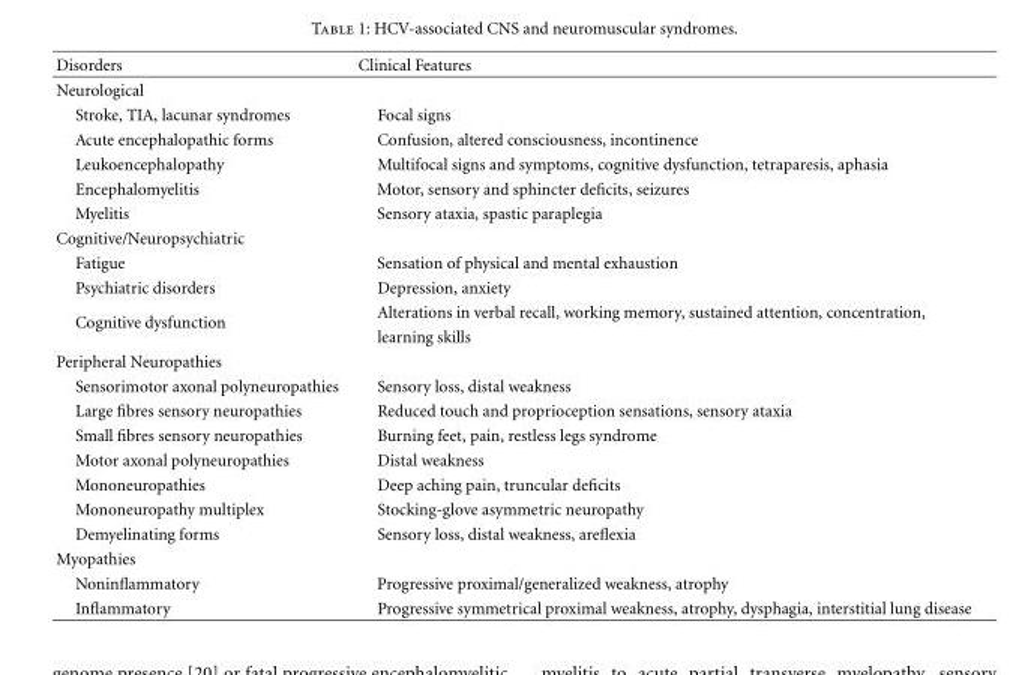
<table><thead><tr><td>Disorders</td><td>Clinical Features</td></tr></thead><tbody><tr><td colspan="2">Neurological</td></tr><tr><td>Stroke, TIA, lacunar syndromes</td><td>Focal signs</td></tr><tr><td>Acute encephalopathic forms</td><td>Confusion, altered consciousness, incontinence</td></tr><tr><td>Leukoencephalopathy</td><td>Multifocal signs and symptoms, cognitive dysfunction, tetraparesis, aphasia</td></tr><tr><td>Encephalomyelitis</td><td>Motor, sensory and sphincter deficits, seizures</td></tr><tr><td>Myelitis</td><td>Sensory ataxia, spastic paraplegia</td></tr><tr><td colspan="2">Cognitive/Neuropsychiatric</td></tr><tr><td>Fatigue</td><td>Sensation of physical and mental exhaustion</td></tr><tr><td>Psychiatric disorders</td><td>Depression, anxiety</td></tr><tr><td rowspan="2">Cognitive dysfunction</td><td>Alterations in verbal recall, working memory, sustained attention, concentration,</td></tr><tr><td>learning skills</td></tr><tr><td colspan="2">Peripheral Neuropathies</td></tr><tr><td>Sensorimotor axonal polyneuropathies</td><td>Sensory loss, distal weakness</td></tr><tr><td>Large fibres sensory neuropathies</td><td>Reduced touch and proprioception sensations, sensory ataxia</td></tr><tr><td>Small fibres sensory neuropathies</td><td>Burning feet, pain, restless legs syndrome</td></tr><tr><td>Motor axonal polyneuropathies</td><td>Distal weakness</td></tr><tr><td>Mononeuropathies</td><td>Deep aching pain, truncular deficits</td></tr><tr><td>Mononeuropathy multiplex</td><td>Stocking-glove asymmetric neuropathy</td></tr><tr><td>Demyelinating forms</td><td>Sensory loss, distal weakness, areflexia</td></tr><tr><td colspan="2">Myopathies</td></tr><tr><td>Noninflammatory</td><td>Progressive proximal/generalized weakness, atrophy</td></tr><tr><td>Inflammatory</td><td>Progressive symmetrical proximal weakness, atrophy, dysphagia, interstitial lung disease</td></tr></tbody></table>